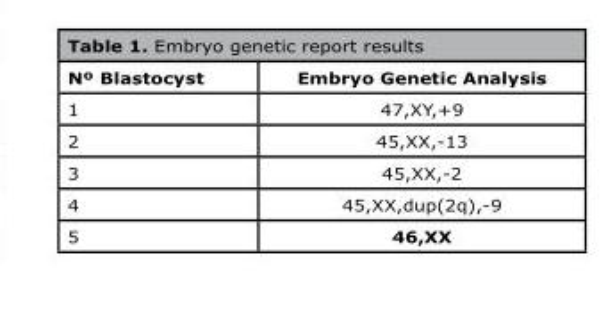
<table><thead><tr><td>Nº Blastocyst</td><td>Embryo Genetic Analysis</td></tr></thead><tbody><tr><td>1</td><td>47,XY,+9</td></tr><tr><td>2</td><td>45,XX,-13</td></tr><tr><td>3</td><td>45,XX,-2</td></tr><tr><td>4</td><td>45,XX,dup(2q),-9</td></tr><tr><td>5</td><td>46,XX</td></tr></tbody></table>